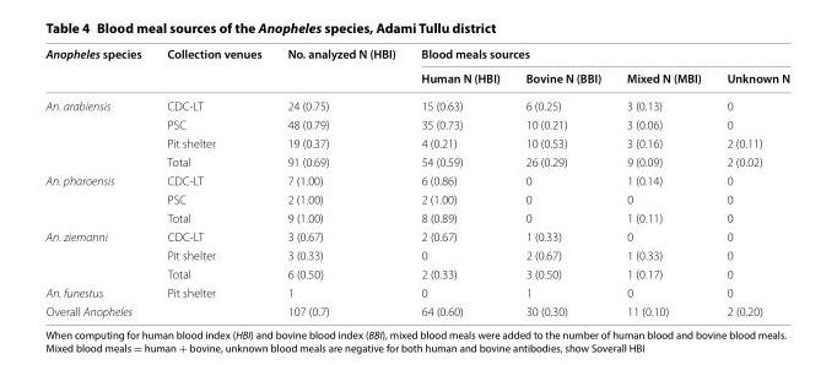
<table><thead><tr><td rowspan="2">Anopheles species</td><td rowspan="2">Collection venues</td><td rowspan="2">No. analyzed N (HBI)</td><td colspan="4">Blood meals sources</td></tr><tr><td>Human N (HBI)</td><td>Bovine N (BBI)</td><td>Mixed N (MBI)</td><td>Unknown N</td></tr></thead><tbody><tr><td rowspan="4">An. arabiensis</td><td>CDC‑LT</td><td>24 (0.75)</td><td>15 (0.63)</td><td>6 (0.25)</td><td>3 (0.13)</td><td>0</td></tr><tr><td>PSC</td><td>48 (0.79)</td><td>35 (0.73)</td><td>10 (0.21)</td><td>3 (0.06)</td><td>0</td></tr><tr><td>Pit shelter</td><td>19 (0.37)</td><td>4 (0.21)</td><td>10 (0.53)</td><td>3 (0.16)</td><td>2 (0.11)</td></tr><tr><td>Total</td><td>91 (0.69)</td><td>54 (0.59)</td><td>26 (0.29)</td><td>9 (0.09)</td><td>2 (0.02)</td></tr><tr><td rowspan="3">An. pharoensis</td><td>CDC‑LT</td><td>7 (1.00)</td><td>6 (0.86)</td><td>0</td><td>1 (0.14)</td><td>0</td></tr><tr><td>PSC</td><td>2 (1.00)</td><td>2 (1.00)</td><td>0</td><td>0</td><td>0</td></tr><tr><td>Total</td><td>9 (1.00)</td><td>8 (0.89)</td><td>0</td><td>1 (0.11)</td><td>0</td></tr><tr><td rowspan="3">An. ziemanni</td><td>CDC‑LT</td><td>3 (0.67)</td><td>2 (0.67)</td><td>1 (0.33)</td><td>0</td><td>0</td></tr><tr><td>Pit shelter</td><td>3 (0.33)</td><td>0</td><td>2 (0.67)</td><td>1 (0.33)</td><td>0</td></tr><tr><td>Total</td><td>6 (0.50)</td><td>2 (0.33)</td><td>3 (0.50)</td><td>1 (0.17)</td><td>0</td></tr><tr><td>An. funestus</td><td>Pit shelter</td><td>1</td><td>0</td><td>1</td><td>0</td><td>0</td></tr><tr><td colspan="2">Overall Anopheles</td><td>107 (0.7)</td><td>64 (0.60)</td><td>30 (0.30)</td><td>11 (0.10)</td><td>2 (0.20)</td></tr></tbody></table>